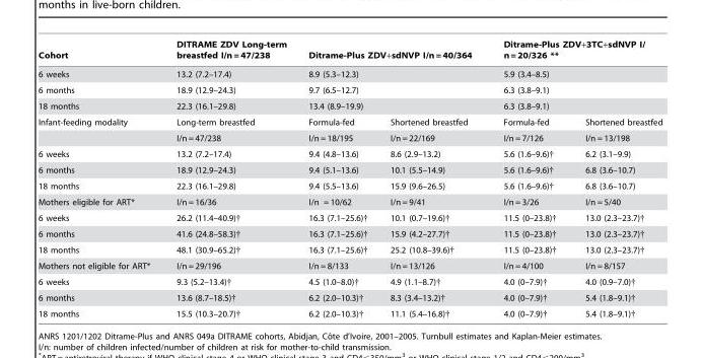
<table><thead><tr><td>Cohort</td><td>DITRAME ZDV Long-term breastfed I/n = 47/238</td><td colspan="2">Ditrame-Plus ZDV+sdNVP I/n = 40/364</td><td colspan="2">Ditrame-Plus ZDV+3TC+sdNVP I/ n = 20/326 **</td></tr></thead><tbody><tr><td>6 weeks</td><td>13.2 (7.2–17.4)</td><td colspan="2">8.9 (5.3–12.3)</td><td colspan="2">5.9 (3.4–8.5)</td></tr><tr><td>6 months</td><td>18.9 (12.9–24.3)</td><td colspan="2">9.7 (6.5–12.7)</td><td colspan="2">6.3 (3.8–9.1)</td></tr><tr><td>18 months</td><td>22.3 (16.1–29.8)</td><td colspan="2">13.4 (8.9–19.9)</td><td colspan="2">6.3 (3.8–9.1)</td></tr><tr><td rowspan="2">Infant-feeding modality</td><td>Long-term breastfed</td><td>Formula-fed</td><td>Shortened breastfed</td><td>Formula-fed</td><td>Shortened breastfed</td></tr><tr><td>I/n = 47/238</td><td>I/n = 18/195</td><td>I/n = 22/169</td><td>I/n = 7/126</td><td>I/n = 13/198</td></tr><tr><td>6 weeks</td><td>13.2 (7.2–17.4)</td><td>9.4 (4.8–13.6)</td><td>8.6 (2.9–13.2)</td><td>5.6 (1.6–9.6)†</td><td>6.2 (3.1–9.9)</td></tr><tr><td>6 months</td><td>18.9 (12.9–24.3)</td><td>9.4 (5.1–13.6)</td><td>10.1 (5.5–14.9)</td><td>5.6 (1.6–9.6)†</td><td>6.8 (3.6–10.7)</td></tr><tr><td>18 months</td><td>22.3 (16.1–29.8)</td><td>9.4 (5.5–13.6)</td><td>15.9 (9.6–26.5)</td><td>5.6 (1.6–9.6)†</td><td>6.8 (3.6–10.7)</td></tr><tr><td>Mothers eligible for ART*</td><td>I/n = 16/36</td><td>I/n = 10/62</td><td>I/n = 9/41</td><td>I/n = 3/26</td><td>I/n = 5/40</td></tr><tr><td>6 weeks</td><td>26.2 (11.4–40.9)†</td><td>16.3 (7.1–25.6)†</td><td>10.1 (0.7–19.6)†</td><td>11.5 (0–23.8)†</td><td>13.0 (2.3–23.7)†</td></tr><tr><td>6 months</td><td>41.6 (24.8–58.3)†</td><td>16.3 (7.1–25.6)†</td><td>15.9 (4.2–27.7)†</td><td>11.5 (0–23.8)†</td><td>13.0 (2.3–23.7)†</td></tr><tr><td>18 months</td><td>48.1 (30.9–65.2)†</td><td>16.3 (7.1–25.6)†</td><td>25.2 (10.8–39.6)†</td><td>11.5 (0–23.8)†</td><td>13.0 (2.3–23.7)†</td></tr><tr><td>Mothers not eligible for ART*</td><td>I/n = 29/196</td><td>I/n = 8/133</td><td>I/n = 13/126</td><td>I/n = 4/100</td><td>I/n = 8/157</td></tr><tr><td>6 weeks</td><td>9.3 (5.2–13.4)†</td><td>4.5 (1.0–8.0)†</td><td>4.9 (1.1–8.7)†</td><td>4.0 (0–7.9)†</td><td>4.0 (0.9–7.0)†</td></tr><tr><td>6 months</td><td>13.6 (8.7–18.5)†</td><td>6.2 (2.0–10.3)†</td><td>8.3 (3.4–13.2)†</td><td>4.0 (0–7.9)†</td><td>5.4 (1.8–9.1)†</td></tr><tr><td>18 months</td><td>15.5 (10.3–20.7)†</td><td>6.2 (2.0–10.3)†</td><td>11.1 (5.4–16.8)†</td><td>4.0 (0–7.9)†</td><td>5.4 (1.8–9.1)†</td></tr></tbody></table>